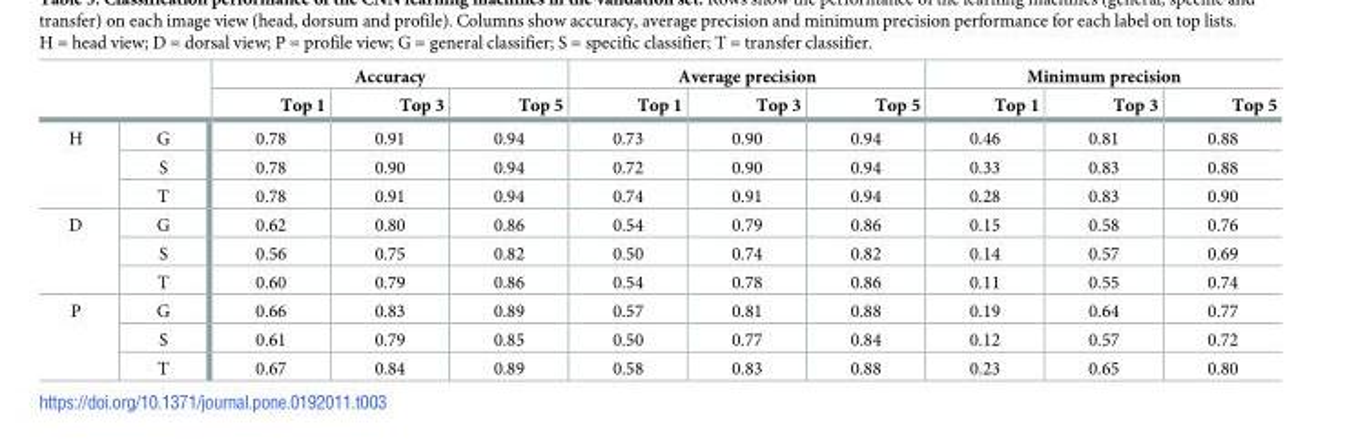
<table><thead><tr><td rowspan="2"></td><td rowspan="2"></td><td colspan="3">Accuracy</td><td colspan="3">Average precision</td><td colspan="3">Minimum precision</td></tr><tr><td>Top 1</td><td>Top 3</td><td>Top 5</td><td>Top 1</td><td>Top 3</td><td>Top 5</td><td>Top 1</td><td>Top 3</td><td>Top 5</td></tr></thead><tbody><tr><td rowspan="3">H</td><td>G</td><td>0.78</td><td>0.91</td><td>0.94</td><td>0.73</td><td>0.90</td><td>0.94</td><td>0.46</td><td>0.81</td><td>0.88</td></tr><tr><td>S</td><td>0.78</td><td>0.90</td><td>0.94</td><td>0.72</td><td>0.90</td><td>0.94</td><td>0.33</td><td>0.83</td><td>0.88</td></tr><tr><td>T</td><td>0.78</td><td>0.91</td><td>0.94</td><td>0.74</td><td>0.91</td><td>0.94</td><td>0.28</td><td>0.83</td><td>0.90</td></tr><tr><td rowspan="3">D</td><td>G</td><td>0.62</td><td>0.80</td><td>0.86</td><td>0.54</td><td>0.79</td><td>0.86</td><td>0.15</td><td>0.58</td><td>0.76</td></tr><tr><td>S</td><td>0.56</td><td>0.75</td><td>0.82</td><td>0.50</td><td>0.74</td><td>0.82</td><td>0.14</td><td>0.57</td><td>0.69</td></tr><tr><td>T</td><td>0.60</td><td>0.79</td><td>0.86</td><td>0.54</td><td>0.78</td><td>0.86</td><td>0.11</td><td>0.55</td><td>0.74</td></tr><tr><td rowspan="3">P</td><td>G</td><td>0.66</td><td>0.83</td><td>0.89</td><td>0.57</td><td>0.81</td><td>0.88</td><td>0.19</td><td>0.64</td><td>0.77</td></tr><tr><td>S</td><td>0.61</td><td>0.79</td><td>0.85</td><td>0.50</td><td>0.77</td><td>0.84</td><td>0.12</td><td>0.57</td><td>0.72</td></tr><tr><td>T</td><td>0.67</td><td>0.84</td><td>0.89</td><td>0.58</td><td>0.83</td><td>0.88</td><td>0.23</td><td>0.65</td><td>0.80</td></tr></tbody></table>